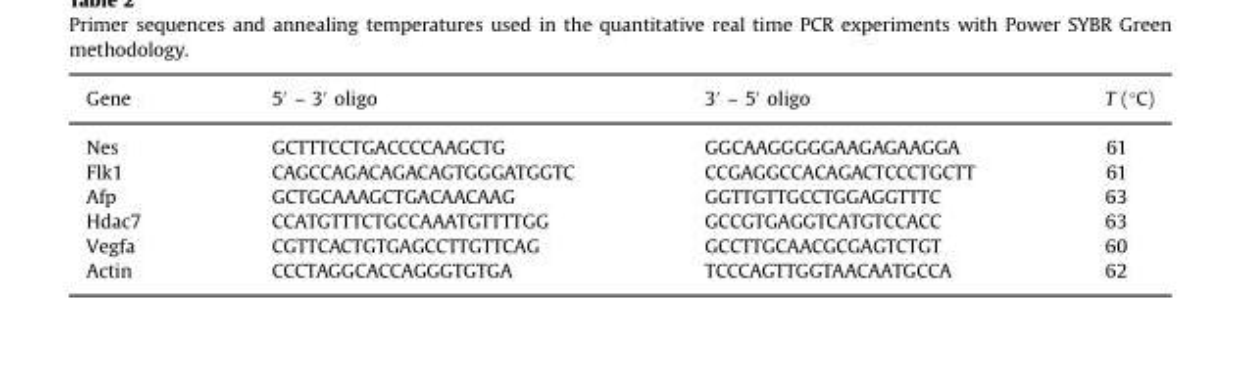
<table><thead><tr><td>Gene</td><td>5′ – 3′ oligo</td><td>3′ – 5′ oligo</td><td>T (°C)</td></tr></thead><tbody><tr><td>Nes</td><td>GCTTTCCTGACCCCAAGCTG</td><td>GGCAAGGGGGAAGAGAAGGA</td><td>61</td></tr><tr><td>Flk1</td><td>CAGCCAGACAGACAGTGGGATGGTC</td><td>CCGAGGCCACAGACTCCCTGCTT</td><td>61</td></tr><tr><td>Afp</td><td>GCTGCAAAGCTGACAACAAG</td><td>GGTTGTTGCCTGGAGGTTTC</td><td>63</td></tr><tr><td>Hdac7</td><td>CCATGTTTCTGCCAAATGTTTTGG</td><td>GCCGTGAGGTCATGTCCACC</td><td>63</td></tr><tr><td>Vegfa</td><td>CGTTCACTGTGAGCCTTGTTCAG</td><td>GCCTTGCAACGCGAGTCTGT</td><td>60</td></tr><tr><td>Actin</td><td>CCCTAGGCACCAGGGTGTGA</td><td>TCCCAGTTGGTAACAATGCCA</td><td>62</td></tr></tbody></table>